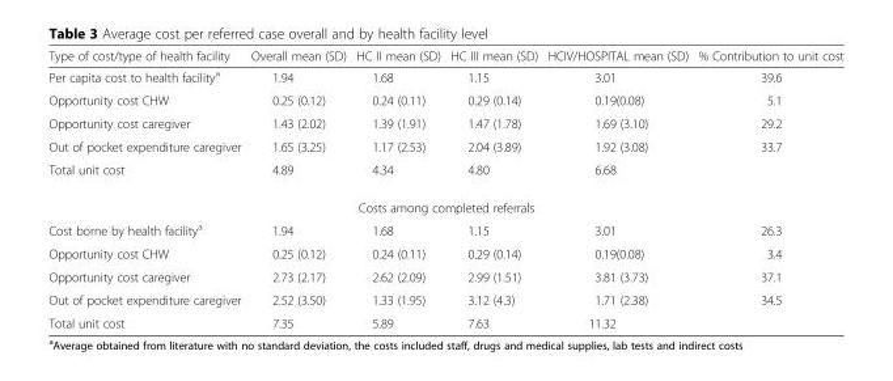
<table><thead><tr><td>Type of cost/type of health facility</td><td>Overall mean (SD)</td><td>HC II mean (SD)</td><td>HC III mean (SD)</td><td>HCIV/HOSPITAL mean (SD)</td><td>% Contribution to unit cost</td></tr></thead><tbody><tr><td>Per capita cost to health facility<sup>a</sup></td><td>1.94</td><td>1.68</td><td>1.15</td><td>3.01</td><td>39.6</td></tr><tr><td>Opportunity cost CHW</td><td>0.25 (0.12)</td><td>0.24 (0.11)</td><td>0.29 (0.14)</td><td>0.19(0.08)</td><td>5.1</td></tr><tr><td>Opportunity cost caregiver</td><td>1.43 (2.02)</td><td>1.39 (1.91)</td><td>1.47 (1.78)</td><td>1.69 (3.10)</td><td>29.2</td></tr><tr><td>Out of pocket expenditure caregiver</td><td>1.65 (3.25)</td><td>1.17 (2.53)</td><td>2.04 (3.89)</td><td>1.92 (3.08)</td><td>33.7</td></tr><tr><td>Total unit cost</td><td>4.89</td><td>4.34</td><td>4.80</td><td>6.68</td><td></td></tr><tr><td colspan="6">Costs among completed referrals</td></tr><tr><td>Cost borne by health facility<sup>a</sup></td><td>1.94</td><td>1.68</td><td>1.15</td><td>3.01</td><td>26.3</td></tr><tr><td>Opportunity cost CHW</td><td>0.25 (0.12)</td><td>0.24 (0.11)</td><td>0.29 (0.14)</td><td>0.19(0.08)</td><td>3.4</td></tr><tr><td>Opportunity cost caregiver</td><td>2.73 (2.17)</td><td>2.62 (2.09)</td><td>2.99 (1.51)</td><td>3.81 (3.73)</td><td>37.1</td></tr><tr><td>Out of pocket expenditure caregiver</td><td>2.52 (3.50)</td><td>1.33 (1.95)</td><td>3.12 (4.3)</td><td>1.71 (2.38)</td><td>34.5</td></tr><tr><td>Total unit cost</td><td>7.35</td><td>5.89</td><td>7.63</td><td>11.32</td><td></td></tr></tbody></table>